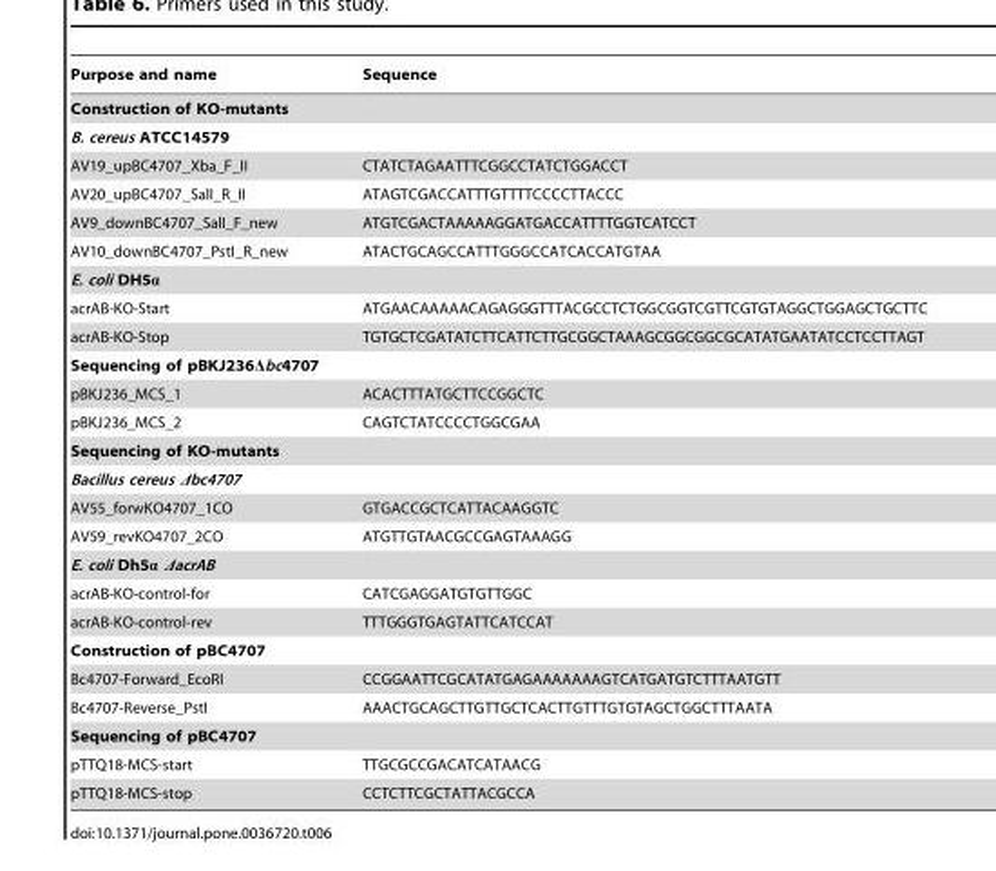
<table><thead><tr><td>Purpose and name</td><td>Sequence</td></tr></thead><tbody><tr><td colspan="2">Construction of KO-mutants</td></tr><tr><td colspan="2">B. cereus ATCC14579</td></tr><tr><td>AV19_upBC4707_Xba_F_II</td><td>CTATCTAGAATTTCGGCCTATCTGGACCT</td></tr><tr><td>AV20_upBC4707_SalI_R_II</td><td>ATAGTCGACCATTTGTTTTCCCCTTACCC</td></tr><tr><td>AV9_downBC4707_SalI_F_new</td><td>ATGTCGACTAAAAAGGATGACCATTTTGGTCATCCT</td></tr><tr><td>AV10_downBC4707_PstI_R_new</td><td>ATACTGCAGCCATTTGGGCCATCACCATGTAA</td></tr><tr><td colspan="2">E. coli DH5α</td></tr><tr><td>acrAB-KO-Start</td><td>ATGAACAAAAACAGAGGGTTTACGCCTCTGGCGGTCGTTCGTGTAGGCTGGAGCTGCTTC</td></tr><tr><td>acrAB-KO-Stop</td><td>TGTGCTCGATATCTTCATTCTTGCGGCTAAAGCGGCGGCGCATATGAATATCCTCCTTAGT</td></tr><tr><td colspan="2">Sequencing of pBKJ236Δbc4707</td></tr><tr><td>pBKJ236_MCS_1</td><td>ACACTTTATGCTTCCGGCTC</td></tr><tr><td>pBKJ236_MCS_2</td><td>CAGTCTATCCCCTGGCGAA</td></tr><tr><td colspan="2">Sequencing of KO-mutants</td></tr><tr><td colspan="2">Bacillus cereus Δbc4707</td></tr><tr><td>AV55_forwKO4707_1CO</td><td>GTGACCGCTCATTACAAGGTC</td></tr><tr><td>AV59_revKO4707_2CO</td><td>ATGTTGTAACGCCGAGTAAAGG</td></tr><tr><td colspan="2">E. coli Dh5α ΔacrAB</td></tr><tr><td>acrAB-KO-control-for</td><td>CATCGAGGATGTGTTGGC</td></tr><tr><td>acrAB-KO-control-rev</td><td>TTTGGGTGAGTATTCATCCAT</td></tr><tr><td colspan="2">Construction of pBC4707</td></tr><tr><td>Bc4707-Forward_EcoRI</td><td>CCGGAATTCGCATATGAGAAAAAAAGTCATGATGTCTTTAATGTT</td></tr><tr><td>Bc4707-Reverse_PstI</td><td>AAACTGCAGCTTGTTGCTCACTTGTTTGTGTAGCTGGCTTTAATA</td></tr><tr><td colspan="2">Sequencing of pBC4707</td></tr><tr><td>pTTQ18-MCS-start</td><td>TTGCGCCGACATCATAACG</td></tr><tr><td>pTTQ18-MCS-stop</td><td>CCTCTTCGCTATTACGCCA</td></tr></tbody></table>